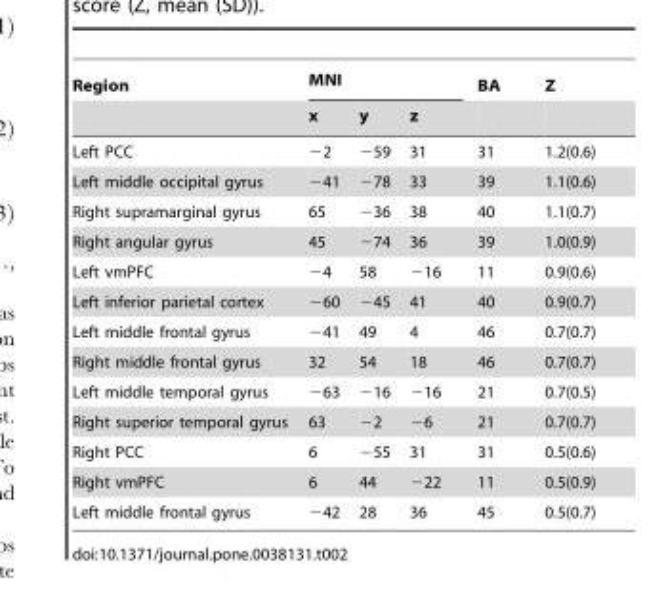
<table><thead><tr><td rowspan="2">Region</td><td colspan="3">MNI</td><td rowspan="2">BA</td><td rowspan="2">Z</td></tr><tr><td>x</td><td>y</td><td>z</td></tr></thead><tbody><tr><td>Left PCC</td><td>−2</td><td>−59</td><td>31</td><td>31</td><td>1.2(0.6)</td></tr><tr><td>Left middle occipital gyrus</td><td>−41</td><td>−78</td><td>33</td><td>39</td><td>1.1(0.6)</td></tr><tr><td>Right supramarginal gyrus</td><td>65</td><td>−36</td><td>38</td><td>40</td><td>1.1(0.7)</td></tr><tr><td>Right angular gyrus</td><td>45</td><td>−74</td><td>36</td><td>39</td><td>1.0(0.9)</td></tr><tr><td>Left vmPFC</td><td>−4</td><td>58</td><td>−16</td><td>11</td><td>0.9(0.6)</td></tr><tr><td>Left inferior parietal cortex</td><td>−60</td><td>−45</td><td>41</td><td>40</td><td>0.9(0.7)</td></tr><tr><td>Left middle frontal gyrus</td><td>−41</td><td>49</td><td>4</td><td>46</td><td>0.7(0.7)</td></tr><tr><td>Right middle frontal gyrus</td><td>32</td><td>54</td><td>18</td><td>46</td><td>0.7(0.7)</td></tr><tr><td>Left middle temporal gyrus</td><td>−63</td><td>−16</td><td>−16</td><td>21</td><td>0.7(0.5)</td></tr><tr><td>Right superior temporal gyrus</td><td>63</td><td>−2</td><td>−6</td><td>21</td><td>0.7(0.7)</td></tr><tr><td>Right PCC</td><td>6</td><td>−55</td><td>31</td><td>31</td><td>0.5(0.6)</td></tr><tr><td>Right vmPFC</td><td>6</td><td>44</td><td>−22</td><td>11</td><td>0.5(0.9)</td></tr><tr><td>Left middle frontal gyrus</td><td>−42</td><td>28</td><td>36</td><td>45</td><td>0.5(0.7)</td></tr></tbody></table>